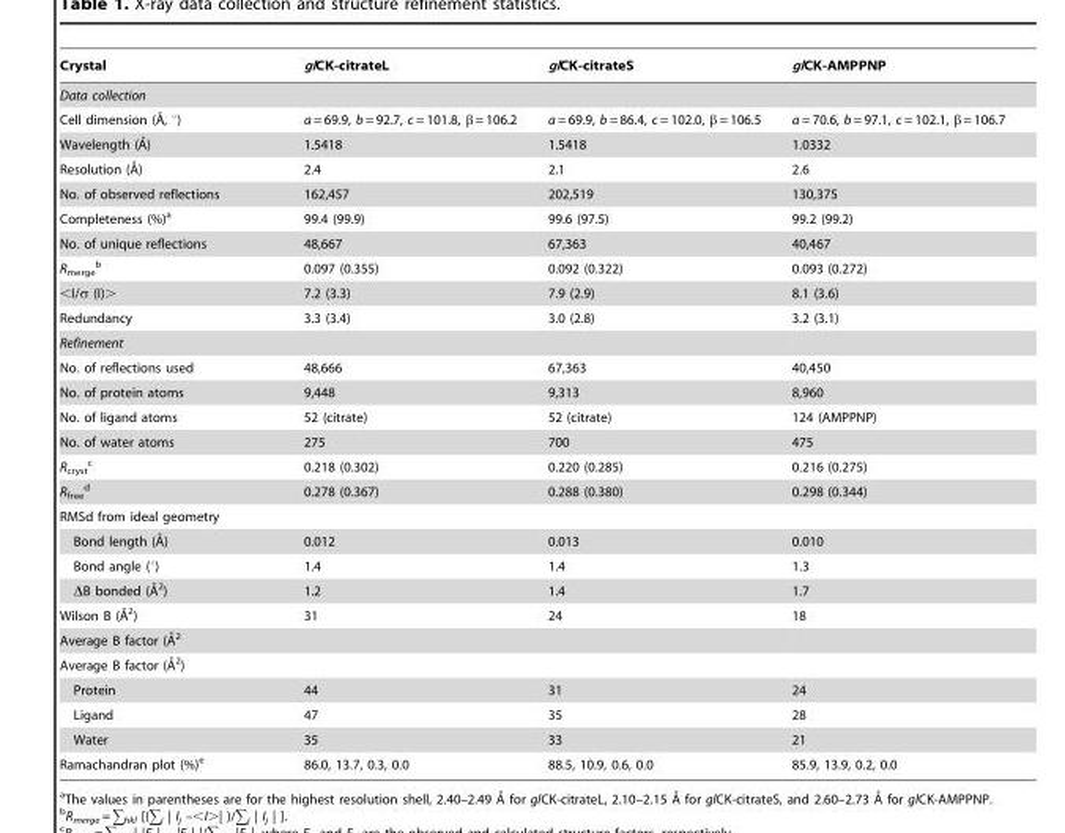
<table><thead><tr><td>Crystal</td><td>glCK-citrateL</td><td>glCK-citrateS</td><td>glCK-AMPPNP</td></tr></thead><tbody><tr><td colspan="4">Data collection</td></tr><tr><td>Cell dimension (A˚, u)</td><td>a = 69.9, b = 92.7, c = 101.8, β = 106.2</td><td>a = 69.9, b = 86.4, c = 102.0, β = 106.5</td><td>a = 70.6, b = 97.1, c = 102.1, β = 106.7</td></tr><tr><td>Wavelength (A˚)</td><td>1.5418</td><td>1.5418</td><td>1.0332</td></tr><tr><td>Resolution (A˚)</td><td>2.4</td><td>2.1</td><td>2.6</td></tr><tr><td>No. of observed reflections</td><td>162,457</td><td>202,519</td><td>130,375</td></tr><tr><td>Completeness (%)<sup>a</sup></td><td>99.4 (99.9)</td><td>99.6 (97.5)</td><td>99.2 (99.2)</td></tr><tr><td>No. of unique reflections</td><td>48,667</td><td>67,363</td><td>40,467</td></tr><tr><td>R<sub>merge</sub> b</td><td>0.097 (0.355)</td><td>0.092 (0.322)</td><td>0.093 (0.272)</td></tr><tr><td>&lt;I/σ (I)&gt;</td><td>7.2 (3.3)</td><td>7.9 (2.9)</td><td>8.1 (3.6)</td></tr><tr><td>Redundancy</td><td>3.3 (3.4)</td><td>3.0 (2.8)</td><td>3.2 (3.1)</td></tr><tr><td colspan="4">Refinement</td></tr><tr><td>No. of reflections used</td><td>48,666</td><td>67,363</td><td>40,450</td></tr><tr><td>No. of protein atoms</td><td>9,448</td><td>9,313</td><td>8,960</td></tr><tr><td>No. of ligand atoms</td><td>52 (citrate)</td><td>52 (citrate)</td><td>124 (AMPPNP)</td></tr><tr><td>No. of water atoms</td><td>275</td><td>700</td><td>475</td></tr><tr><td>R<sub>cryst</sub> c</td><td>0.218 (0.302)</td><td>0.220 (0.285)</td><td>0.216 (0.275)</td></tr><tr><td>R<sub>free</sub> d</td><td>0.278 (0.367)</td><td>0.288 (0.380)</td><td>0.298 (0.344)</td></tr><tr><td colspan="4">RMSd from ideal geometry</td></tr><tr><td>Bond length (A˚)</td><td>0.012</td><td>0.013</td><td>0.010</td></tr><tr><td>Bond angle (°)</td><td>1.4</td><td>1.4</td><td>1.3</td></tr><tr><td>DB bonded (A˚2)</td><td>1.2</td><td>1.4</td><td>1.7</td></tr><tr><td>Wilson B (A˚2)</td><td>31</td><td>24</td><td>18</td></tr><tr><td colspan="4">Average B factor (A˚2</td></tr><tr><td colspan="4">Average B factor (A˚2)</td></tr><tr><td>Protein</td><td>44</td><td>31</td><td>24</td></tr><tr><td>Ligand</td><td>47</td><td>35</td><td>28</td></tr><tr><td>Water</td><td>35</td><td>33</td><td>21</td></tr><tr><td>Ramachandran plot (%)<sup>e</sup></td><td>86.0, 13.7, 0.3, 0.0</td><td>88.5, 10.9, 0.6, 0.0</td><td>85.9, 13.9, 0.2, 0.0</td></tr></tbody></table>